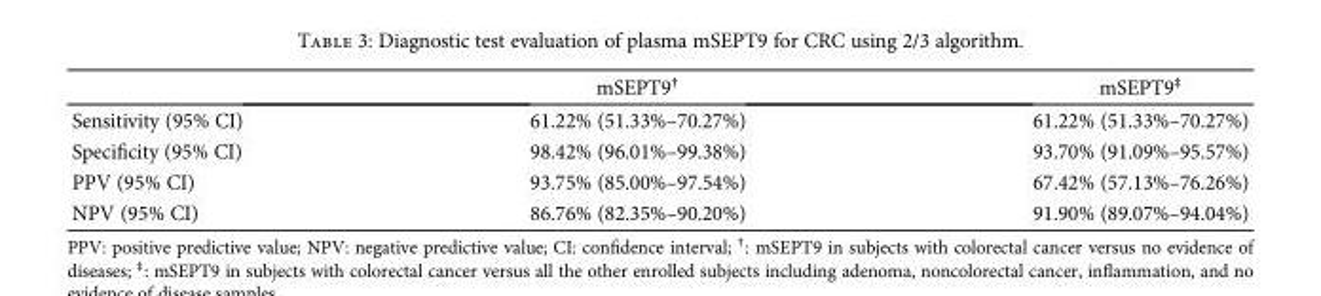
<table><thead><tr><td></td><td>mSEPT9<sup>†</sup></td><td>mSEPT9<sup>‡</sup></td></tr></thead><tbody><tr><td>Sensitivity (95% CI)</td><td>61.22% (51.33%–70.27%)</td><td>61.22% (51.33%–70.27%)</td></tr><tr><td>Specificity (95% CI)</td><td>98.42% (96.01%–99.38%)</td><td>93.70% (91.09%–95.57%)</td></tr><tr><td>PPV (95% CI)</td><td>93.75% (85.00%–97.54%)</td><td>67.42% (57.13%–76.26%)</td></tr><tr><td>NPV (95% CI)</td><td>86.76% (82.35%–90.20%)</td><td>91.90% (89.07%–94.04%)</td></tr></tbody></table>